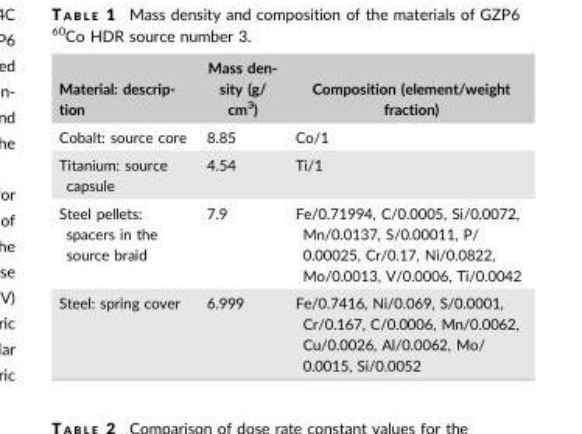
<table><thead><tr><td>Material: descrip- tion</td><td>Mass den- sity (g/ cm3)</td><td>Composition (element/weight fraction)</td></tr></thead><tbody><tr><td>Cobalt: source core</td><td>8.85</td><td>Co/1</td></tr><tr><td>Titanium: source capsule</td><td>4.54</td><td>Ti/1</td></tr><tr><td>Steel pellets: spacers in the source braid</td><td>7.9</td><td>Fe/0.71994, C/0.0005, Si/0.0072, Mn/0.0137, S/0.00011, P/ 0.00025, Cr/0.17, Ni/0.0822, Mo/0.0013, V/0.0006, Ti/0.0042</td></tr><tr><td>Steel: spring cover</td><td>6.999</td><td>Fe/0.7416, Ni/0.069, S/0.0001, Cr/0.167, C/0.0006, Mn/0.0062, Cu/0.0026, Al/0.0062, Mo/ 0.0015, Si/0.0052</td></tr></tbody></table>